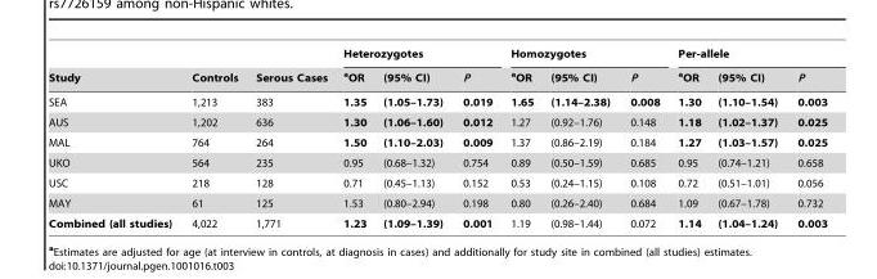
<table><thead><tr><td rowspan="2">Study</td><td rowspan="2">Controls</td><td rowspan="2">Serous Cases</td><td colspan="3">Heterozygotes</td><td colspan="3">Homozygotes</td><td colspan="3">Per-allele</td></tr><tr><td>aOR</td><td>(95% CI)</td><td>P</td><td>aOR</td><td>(95% CI)</td><td>P</td><td>aOR</td><td>(95% CI)</td><td>P</td></tr></thead><tbody><tr><td>SEA</td><td>1,213</td><td>383</td><td>1.35</td><td>(1.05–1.73)</td><td>0.019</td><td>1.65</td><td>(1.14–2.38)</td><td>0.008</td><td>1.30</td><td>(1.10–1.54)</td><td>0.003</td></tr><tr><td>AUS</td><td>1,202</td><td>636</td><td>1.30</td><td>(1.06–1.60)</td><td>0.012</td><td>1.27</td><td>(0.92–1.76)</td><td>0.148</td><td>1.18</td><td>(1.02–1.37)</td><td>0.025</td></tr><tr><td>MAL</td><td>764</td><td>264</td><td>1.50</td><td>(1.10–2.03)</td><td>0.009</td><td>1.37</td><td>(0.86–2.19)</td><td>0.184</td><td>1.27</td><td>(1.03–1.57)</td><td>0.025</td></tr><tr><td>UKO</td><td>564</td><td>235</td><td>0.95</td><td>(0.68–1.32)</td><td>0.754</td><td>0.89</td><td>(0.50–1.59)</td><td>0.685</td><td>0.95</td><td>(0.74–1.21)</td><td>0.658</td></tr><tr><td>USC</td><td>218</td><td>128</td><td>0.71</td><td>(0.45–1.13)</td><td>0.152</td><td>0.53</td><td>(0.24–1.15)</td><td>0.108</td><td>0.72</td><td>(0.51–1.01)</td><td>0.056</td></tr><tr><td>MAY</td><td>61</td><td>125</td><td>1.53</td><td>(0.80–2.94)</td><td>0.198</td><td>0.80</td><td>(0.26–2.40)</td><td>0.684</td><td>1.09</td><td>(0.67–1.78)</td><td>0.732</td></tr><tr><td>Combined (all studies)</td><td>4,022</td><td>1,771</td><td>1.23</td><td>(1.09–1.39)</td><td>0.001</td><td>1.19</td><td>(0.98–1.44)</td><td>0.072</td><td>1.14</td><td>(1.04–1.24)</td><td>0.003</td></tr></tbody></table>